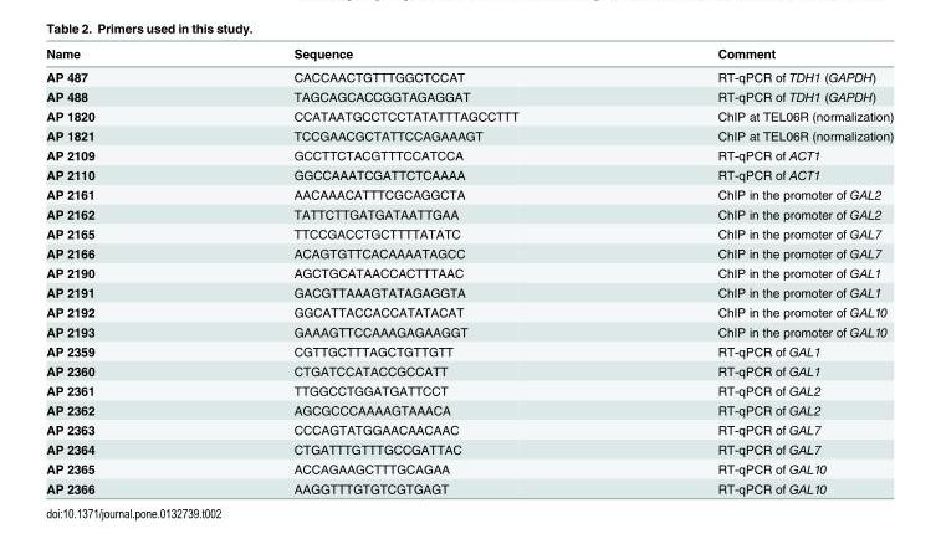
<table><thead><tr><td>Name</td><td>Sequence</td><td>Comment</td></tr></thead><tbody><tr><td>AP 487</td><td>CACCAACTGTTTGGCTCCAT</td><td>RT-qPCR of TDH1 (GAPDH)</td></tr><tr><td>AP 488</td><td>TAGCAGCACCGGTAGAGGAT</td><td>RT-qPCR of TDH1 (GAPDH)</td></tr><tr><td>AP 1820</td><td>CCATAATGCCTCCTATATTTAGCCTTT</td><td>ChIP at TEL06R (normalization)</td></tr><tr><td>AP 1821</td><td>TCCGAACGCTATTCCAGAAAGT</td><td>ChIP at TEL06R (normalization)</td></tr><tr><td>AP 2109</td><td>GCCTTCTACGTTTCCATCCA</td><td>RT-qPCR of ACT1</td></tr><tr><td>AP 2110</td><td>GGCCAAATCGATTCTCAAAA</td><td>RT-qPCR of ACT1</td></tr><tr><td>AP 2161</td><td>AACAAACATTTCGCAGGCTA</td><td>ChIP in the promoter of GAL2</td></tr><tr><td>AP 2162</td><td>TATTCTTGATGATAATTGAA</td><td>ChIP in the promoter of GAL2</td></tr><tr><td>AP 2165</td><td>TTCCGACCTGCTTTTATATC</td><td>ChIP in the promoter of GAL7</td></tr><tr><td>AP 2166</td><td>ACAGTGTTCACAAAATAGCC</td><td>ChIP in the promoter of GAL7</td></tr><tr><td>AP 2190</td><td>AGCTGCATAACCACTTTAAC</td><td>ChIP in the promoter of GAL1</td></tr><tr><td>AP 2191</td><td>GACGTTAAAGTATAGAGGTA</td><td>ChIP in the promoter of GAL1</td></tr><tr><td>AP 2192</td><td>GGCATTACCACCATATACAT</td><td>ChIP in the promoter of GAL10</td></tr><tr><td>AP 2193</td><td>GAAAGTTCCAAAGAGAAGGT</td><td>ChIP in the promoter of GAL10</td></tr><tr><td>AP 2359</td><td>CGTTGCTTTAGCTGTTGTT</td><td>RT-qPCR of GAL1</td></tr><tr><td>AP 2360</td><td>CTGATCCATACCGCCATT</td><td>RT-qPCR of GAL1</td></tr><tr><td>AP 2361</td><td>TTGGCCTGGATGATTCCT</td><td>RT-qPCR of GAL2</td></tr><tr><td>AP 2362</td><td>AGCGCCCAAAAGTAAACA</td><td>RT-qPCR of GAL2</td></tr><tr><td>AP 2363</td><td>CCCAGTATGGAACAACAAC</td><td>RT-qPCR of GAL7</td></tr><tr><td>AP 2364</td><td>CTGATTTGTTTGCCGATTAC</td><td>RT-qPCR of GAL7</td></tr><tr><td>AP 2365</td><td>ACCAGAAGCTTTGCAGAA</td><td>RT-qPCR of GAL10</td></tr><tr><td>AP 2366</td><td>AAGGTTTGTGTCGTGAGT</td><td>RT-qPCR of GAL10</td></tr></tbody></table>